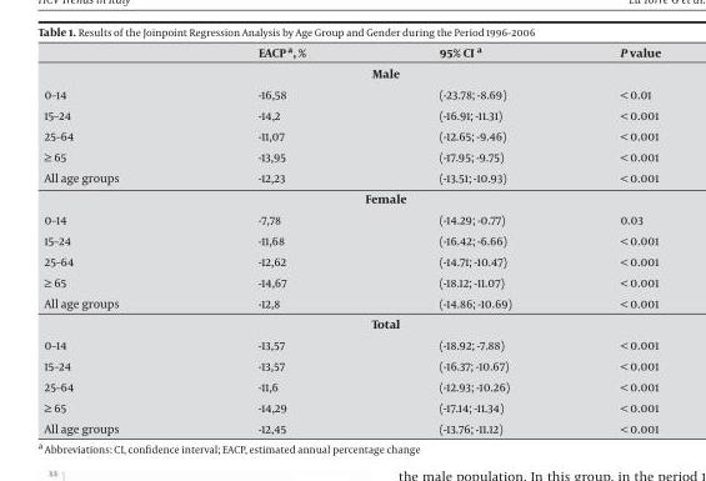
<table><thead><tr><td></td><td>EACP a, %</td><td>95% CI <sup>a</sup></td><td>P value</td></tr></thead><tbody><tr><td colspan="4">Male</td></tr><tr><td>0–14</td><td>-16,58</td><td>(-23.78; -8.69)</td><td>&lt; 0.01</td></tr><tr><td>15–24</td><td>-14,2</td><td>(-16.91; -11.31)</td><td>&lt; 0.001</td></tr><tr><td>25–64</td><td>-11,07</td><td>(-12.65; -9.46)</td><td>&lt; 0.001</td></tr><tr><td>≥ 65</td><td>-13,95</td><td>(-17.95; -9.75)</td><td>&lt; 0.001</td></tr><tr><td>All age groups</td><td>-12,23</td><td>(-13.51; -10.93)</td><td>&lt; 0.001</td></tr><tr><td colspan="4">Female</td></tr><tr><td>0–14</td><td>-7,78</td><td>(-14.29; -0.77)</td><td>0.03</td></tr><tr><td>15–24</td><td>-11,68</td><td>(-16.42; -6.66)</td><td>&lt; 0.001</td></tr><tr><td>25–64</td><td>-12,62</td><td>(-14.71; -10.47)</td><td>&lt; 0.001</td></tr><tr><td>≥ 65</td><td>-14,67</td><td>(-18.12; -11.07)</td><td>&lt; 0.001</td></tr><tr><td>All age groups</td><td>-12,8</td><td>(-14.86; -10.69)</td><td>&lt; 0.001</td></tr><tr><td colspan="4">Total</td></tr><tr><td>0–14</td><td>-13,57</td><td>(-18.92; -7.88)</td><td>&lt; 0.001</td></tr><tr><td>15–24</td><td>-13,57</td><td>(-16.37; -10.67)</td><td>&lt; 0.001</td></tr><tr><td>25–64</td><td>-11,6</td><td>(-12.93; -10.26)</td><td>&lt; 0.001</td></tr><tr><td>≥ 65</td><td>-14,29</td><td>(-17.14; -11.34)</td><td>&lt; 0.001</td></tr><tr><td>All age groups</td><td>-12,45</td><td>(-13.76; -11.12)</td><td>&lt; 0.001</td></tr></tbody></table>